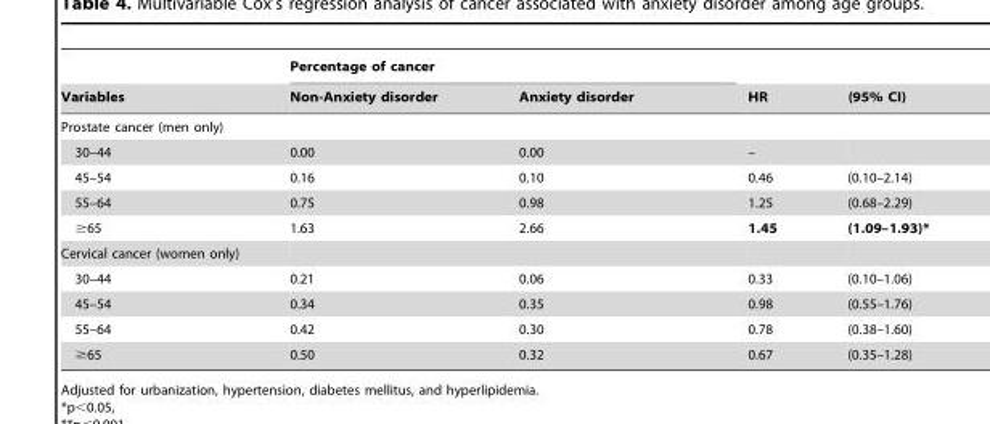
<table><thead><tr><td rowspan="2">Variables</td><td colspan="2">Percentage of cancer</td><td rowspan="2">HR</td><td rowspan="2">(95% CI)</td></tr><tr><td>Non-Anxiety disorder</td><td>Anxiety disorder</td></tr></thead><tbody><tr><td colspan="5">Prostate cancer (men only)</td></tr><tr><td>30–44</td><td>0.00</td><td>0.00</td><td>–</td><td></td></tr><tr><td>45–54</td><td>0.16</td><td>0.10</td><td>0.46</td><td>(0.10–2.14)</td></tr><tr><td>55–64</td><td>0.75</td><td>0.98</td><td>1.25</td><td>(0.68–2.29)</td></tr><tr><td>≥65</td><td>1.63</td><td>2.66</td><td>1.45</td><td>(1.09–1.93)*</td></tr><tr><td colspan="5">Cervical cancer (women only)</td></tr><tr><td>30–44</td><td>0.21</td><td>0.06</td><td>0.33</td><td>(0.10–1.06)</td></tr><tr><td>45–54</td><td>0.34</td><td>0.35</td><td>0.98</td><td>(0.55–1.76)</td></tr><tr><td>55–64</td><td>0.42</td><td>0.30</td><td>0.78</td><td>(0.38–1.60)</td></tr><tr><td>≥65</td><td>0.50</td><td>0.32</td><td>0.67</td><td>(0.35–1.28)</td></tr></tbody></table>